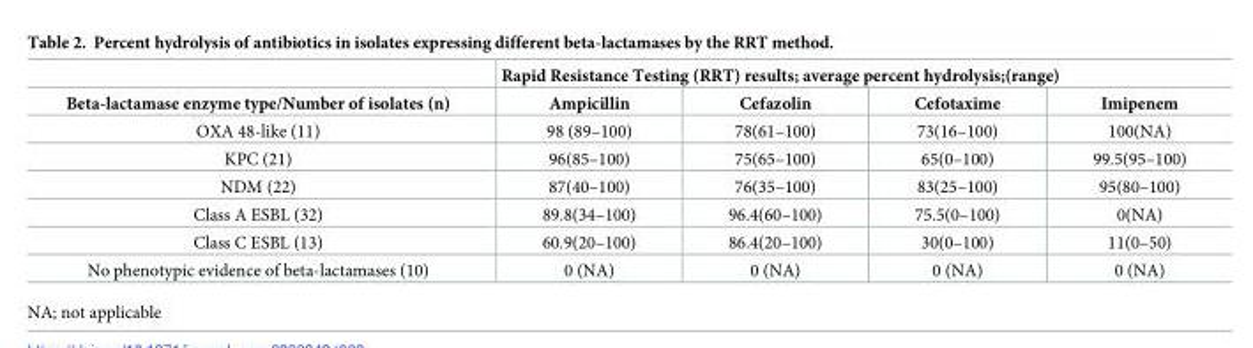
<table><thead><tr><td rowspan="2">Beta-lactamase enzyme type/Number of isolates (n)</td><td colspan="4">Rapid Resistance Testing (RRT) results; average percent hydrolysis;(range)</td></tr><tr><td>Ampicillin</td><td>Cefazolin</td><td>Cefotaxime</td><td>Imipenem</td></tr></thead><tbody><tr><td>OXA 48-like (11)</td><td>98 (89–100)</td><td>78(61–100)</td><td>73(16–100)</td><td>100(NA)</td></tr><tr><td>KPC (21)</td><td>96(85–100)</td><td>75(65–100)</td><td>65(0–100)</td><td>99.5(95–100)</td></tr><tr><td>NDM (22)</td><td>87(40–100)</td><td>76(35–100)</td><td>83(25–100)</td><td>95(80–100)</td></tr><tr><td>Class A ESBL (32)</td><td>89.8(34–100)</td><td>96.4(60–100)</td><td>75.5(0–100)</td><td>0(NA)</td></tr><tr><td>Class C ESBL (13)</td><td>60.9(20–100)</td><td>86.4(20–100)</td><td>30(0–100)</td><td>11(0–50)</td></tr><tr><td>No phenotypic evidence of beta-lactamases (10)</td><td>0 (NA)</td><td>0 (NA)</td><td>0 (NA)</td><td>0 (NA)</td></tr></tbody></table>